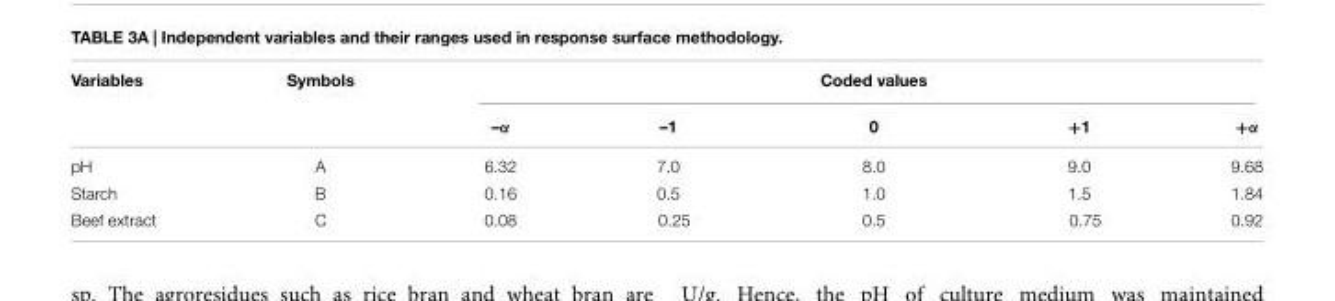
<table><thead><tr><td rowspan="2">Variables</td><td rowspan="2">Symbols</td><td rowspan="2">–α</td><td rowspan="2">–1</td><td rowspan="2">Coded values 0</td><td rowspan="2">+1</td><td rowspan="2">+α</td></tr><tr></tr></thead><tbody><tr><td>pH</td><td>A</td><td>6.32</td><td>7.0</td><td>8.0</td><td>9.0</td><td>9.68</td></tr><tr><td>Starch</td><td>B</td><td>0.16</td><td>0.5</td><td>1.0</td><td>1.5</td><td>1.84</td></tr><tr><td>Beef extract</td><td>C</td><td>0.08</td><td>0.25</td><td>0.5</td><td>0.75</td><td>0.92</td></tr></tbody></table>